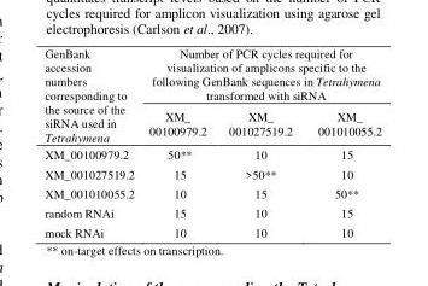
<table><thead><tr><td rowspan="2">GenBank accession numbers corresponding to the source of the siRNA used in Tetrahymena</td><td colspan="3">Number of PCR cycles required for visualization of amplicons specific to the following GenBank sequences in Tetrahymena transformed with siRNA</td></tr><tr><td>XM_ 00100979.2</td><td>XM_ 001027519.2</td><td>XM_ 001010055.2</td></tr></thead><tbody><tr><td>XM_00100979.2</td><td>50**</td><td>10</td><td>15</td></tr><tr><td>XM_001027519.2</td><td>15</td><td>&gt;50**</td><td>10</td></tr><tr><td>XM_001010055.2</td><td>10</td><td>15</td><td>50**</td></tr><tr><td>random RNAi</td><td>15</td><td>10</td><td>15</td></tr><tr><td>mock RNAi</td><td>10</td><td>10</td><td>10</td></tr></tbody></table>